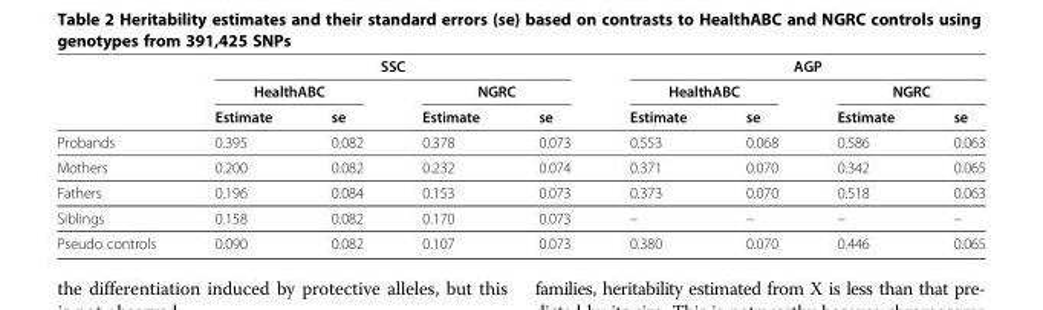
<table><thead><tr><td rowspan="3"></td><td colspan="4">SSC</td><td colspan="4">AGP</td></tr><tr><td colspan="2">HealthABC</td><td colspan="2">NGRC</td><td colspan="2">HealthABC</td><td colspan="2">NGRC</td></tr><tr><td>Estimate</td><td>se</td><td>Estimate</td><td>se</td><td>Estimate</td><td>se</td><td>Estimate</td><td>se</td></tr></thead><tbody><tr><td>Probands</td><td>0.395</td><td>0.082</td><td>0.378</td><td>0.073</td><td>0.553</td><td>0.068</td><td>0.586</td><td>0.063</td></tr><tr><td>Mothers</td><td>0.200</td><td>0.082</td><td>0.232</td><td>0.074</td><td>0.371</td><td>0.070</td><td>0.342</td><td>0.065</td></tr><tr><td>Fathers</td><td>0.196</td><td>0.084</td><td>0.153</td><td>0.073</td><td>0.373</td><td>0.070</td><td>0.518</td><td>0.063</td></tr><tr><td>Siblings</td><td>0.158</td><td>0.082</td><td>0.170</td><td>0.073</td><td>–</td><td>–</td><td>–</td><td>–</td></tr><tr><td>Pseudo controls</td><td>0.090</td><td>0.082</td><td>0.107</td><td>0.073</td><td>0.380</td><td>0.070</td><td>0.446</td><td>0.065</td></tr></tbody></table>